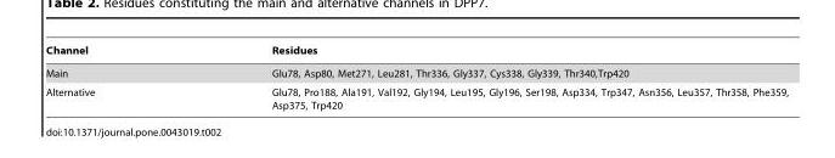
<table><thead><tr><td>Channel</td><td>Residues</td></tr></thead><tbody><tr><td>Main</td><td>Glu78, Asp80, Met271, Leu281, Thr336, Gly337, Cys338, Gly339, Thr340,Trp420</td></tr><tr><td>Alternative</td><td>Glu78, Pro188, Ala191, Val192, Gly194, Leu195, Gly196, Ser198, Asp334, Trp347, Asn356, Leu357, Thr358, Phe359, Asp375, Trp420</td></tr></tbody></table>